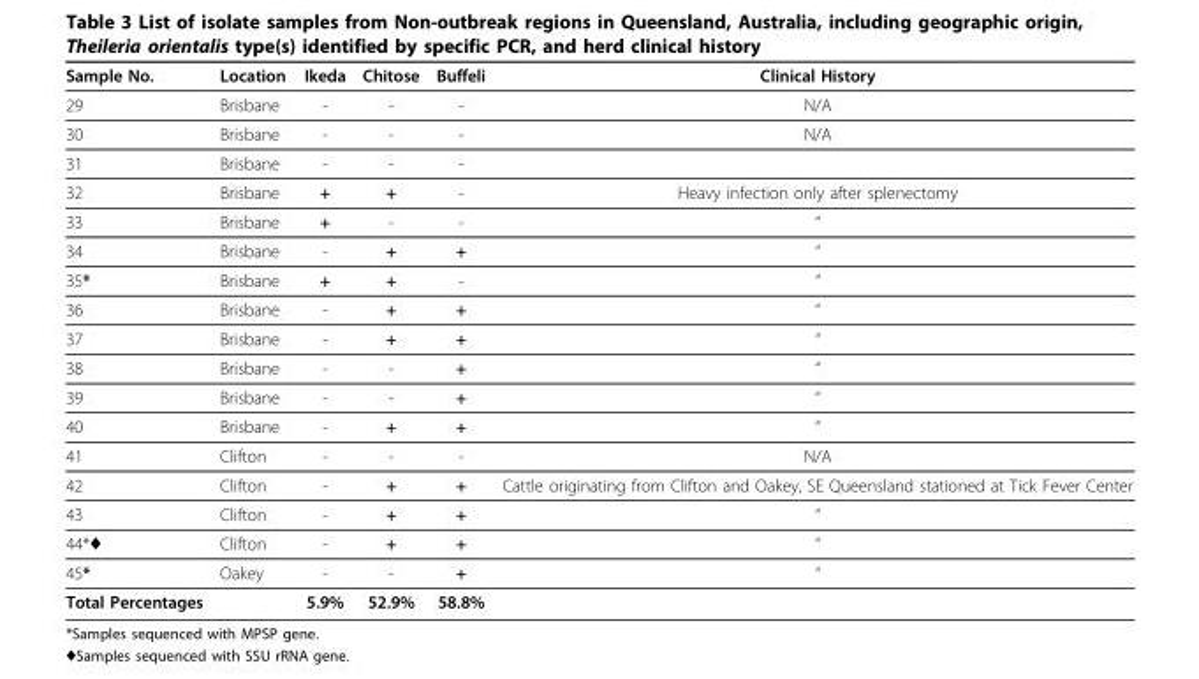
<table><thead><tr><td>Sample No.</td><td>Location</td><td>Ikeda</td><td>Chitose</td><td>Buffeli</td><td>Clinical History</td></tr></thead><tbody><tr><td>29</td><td>Brisbane</td><td>-</td><td>-</td><td>-</td><td>N/A</td></tr><tr><td>30</td><td>Brisbane</td><td>-</td><td>-</td><td>-</td><td>N/A</td></tr><tr><td>31</td><td>Brisbane</td><td>-</td><td>-</td><td>-</td><td></td></tr><tr><td>32</td><td>Brisbane</td><td>+</td><td>+</td><td>-</td><td>Heavy infection only after splenectomy</td></tr><tr><td>33</td><td>Brisbane</td><td>+</td><td>-</td><td>-</td><td>“</td></tr><tr><td>34</td><td>Brisbane</td><td>-</td><td>+</td><td>+</td><td>“</td></tr><tr><td>35*</td><td>Brisbane</td><td>+</td><td>+</td><td>-</td><td>“</td></tr><tr><td>36</td><td>Brisbane</td><td>-</td><td>+</td><td>+</td><td>“</td></tr><tr><td>37</td><td>Brisbane</td><td>-</td><td>+</td><td>+</td><td>“</td></tr><tr><td>38</td><td>Brisbane</td><td>-</td><td>-</td><td>+</td><td>“</td></tr><tr><td>39</td><td>Brisbane</td><td>-</td><td>-</td><td>+</td><td>“</td></tr><tr><td>40</td><td>Brisbane</td><td>-</td><td>+</td><td>+</td><td>“</td></tr><tr><td>41</td><td>Clifton</td><td>-</td><td>-</td><td>-</td><td>N/A</td></tr><tr><td>42</td><td>Clifton</td><td>-</td><td>+</td><td>+</td><td>Cattle originating from Clifton and Oakey, SE Queensland stationed at Tick Fever Center</td></tr><tr><td>43</td><td>Clifton</td><td>-</td><td>+</td><td>+</td><td>“</td></tr><tr><td>44*♦</td><td>Clifton</td><td>-</td><td>+</td><td>+</td><td>“</td></tr><tr><td>45*</td><td>Oakey</td><td>-</td><td>-</td><td>+</td><td>“</td></tr><tr><td>Total Percentages</td><td></td><td>5.9%</td><td>52.9%</td><td>58.8%</td><td></td></tr></tbody></table>